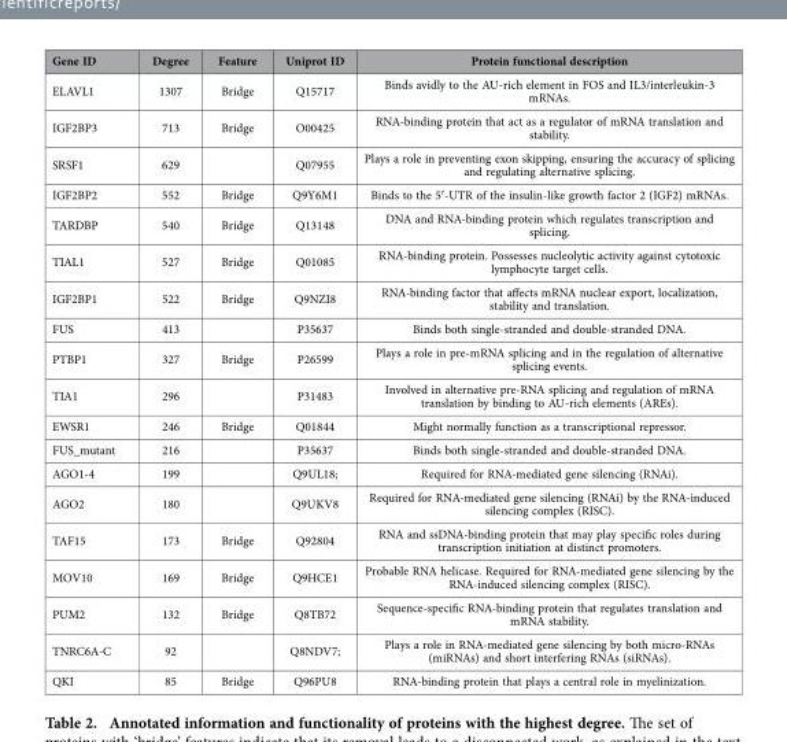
<table><thead><tr><td>Gene ID</td><td>Degree</td><td>Feature</td><td>Uniprot ID</td><td>Protein functional description</td></tr></thead><tbody><tr><td>ELAVL1</td><td>1307</td><td>Bridge</td><td>Q15717</td><td>Binds avidly to the AU-rich element in FOS and IL3/interleukin-3 mRNAs.</td></tr><tr><td>IGF2BP3</td><td>713</td><td>Bridge</td><td>O00425</td><td>RNA-binding protein that act as a regulator of mRNA translation and stability.</td></tr><tr><td>SRSF1</td><td>629</td><td></td><td>Q07955</td><td>Plays a role in preventing exon skipping, ensuring the accuracy of splicing and regulating alternative splicing.</td></tr><tr><td>IGF2BP2</td><td>552</td><td>Bridge</td><td>Q9Y6M1</td><td>Binds to the 5′-UTR of the insulin-like growth factor 2 (IGF2) mRNAs.</td></tr><tr><td>TARDBP</td><td>540</td><td>Bridge</td><td>Q13148</td><td>DNA and RNA-binding protein which regulates transcription and splicing.</td></tr><tr><td>TIAL1</td><td>527</td><td>Bridge</td><td>Q01085</td><td>RNA-binding protein. Possesses nucleolytic activity against cytotoxic lymphocyte target cells.</td></tr><tr><td>IGF2BP1</td><td>522</td><td>Bridge</td><td>Q9NZI8</td><td>RNA-binding factor that affects mRNA nuclear export, localization, stability and translation.</td></tr><tr><td>FUS</td><td>413</td><td></td><td>P35637</td><td>Binds both single-stranded and double-stranded DNA.</td></tr><tr><td>PTBP1</td><td>327</td><td>Bridge</td><td>P26599</td><td>Plays a role in pre-mRNA splicing and in the regulation of alternative splicing events.</td></tr><tr><td>TIA1</td><td>296</td><td></td><td>P31483</td><td>Involved in alternative pre-RNA splicing and regulation of mRNA translation by binding to AU-rich elements (AREs).</td></tr><tr><td>EWSR1</td><td>246</td><td>Bridge</td><td>Q01844</td><td>Might normally function as a transcriptional repressor.</td></tr><tr><td>FUS_mutant</td><td>216</td><td></td><td>P35637</td><td>Binds both single-stranded and double-stranded DNA.</td></tr><tr><td>AGO1-4</td><td>199</td><td></td><td>Q9UL18;</td><td>Required for RNA-mediated gene silencing (RNAi).</td></tr><tr><td>AGO2</td><td>180</td><td></td><td>Q9UKV8</td><td>Required for RNA-mediated gene silencing (RNAi) by the RNA-induced silencing complex (RISC).</td></tr><tr><td>TAF15</td><td>173</td><td>Bridge</td><td>Q92804</td><td>RNA and ssDNA-binding protein that may play specific roles during transcription initiation at distinct promoters.</td></tr><tr><td>MOV10</td><td>169</td><td>Bridge</td><td>Q9HCE1</td><td>Probable RNA helicase. Required for RNA-mediated gene silencing by the RNA-induced silencing complex (RISC).</td></tr><tr><td>PUM2</td><td>132</td><td>Bridge</td><td>Q8TB72</td><td>Sequence-specific RNA-binding protein that regulates translation and mRNA stability.</td></tr><tr><td>TNRC6A-C</td><td>92</td><td></td><td>Q8NDV7;</td><td>Plays a role in RNA-mediated gene silencing by both micro-RNAs (miRNAs) and short interfering RNAs (siRNAs).</td></tr><tr><td>QKI</td><td>85</td><td>Bridge</td><td>Q96PU8</td><td>RNA-binding protein that plays a central role in myelinization.</td></tr></tbody></table>